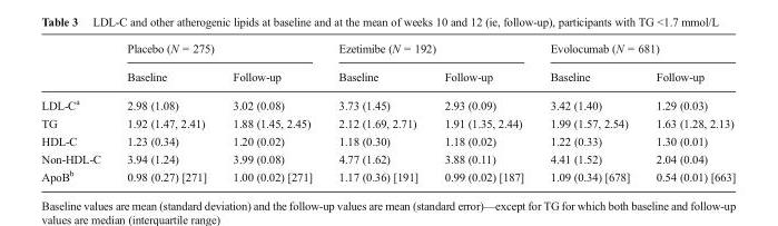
<table><thead><tr><td rowspan="2"></td><td colspan="2">Placebo (N = 275)</td><td colspan="2">Ezetimibe (N = 192)</td><td colspan="2">Evolocumab (N = 681)</td></tr><tr><td>Baseline</td><td>Follow-up</td><td>Baseline</td><td>Follow-up</td><td>Baseline</td><td>Follow-up</td></tr></thead><tbody><tr><td>LDL-C<sup>a</sup></td><td>2.98 (1.08)</td><td>3.02 (0.08)</td><td>3.73 (1.45)</td><td>2.93 (0.09)</td><td>3.42 (1.40)</td><td>1.29 (0.03)</td></tr><tr><td>TG</td><td>1.92 (1.47, 2.41)</td><td>1.88 (1.45, 2.45)</td><td>2.12 (1.69, 2.71)</td><td>1.91 (1.35, 2.44)</td><td>1.99 (1.57, 2.54)</td><td>1.63 (1.28, 2.13)</td></tr><tr><td>HDL-C</td><td>1.23 (0.34)</td><td>1.20 (0.02)</td><td>1.18 (0.30)</td><td>1.18 (0.02)</td><td>1.22 (0.33)</td><td>1.30 (0.01)</td></tr><tr><td>Non-HDL-C</td><td>3.94 (1.24)</td><td>3.99 (0.08)</td><td>4.77 (1.62)</td><td>3.88 (0.11)</td><td>4.41 (1.52)</td><td>2.04 (0.04)</td></tr><tr><td>ApoB<sup>b</sup></td><td>0.98 (0.27) [271]</td><td>1.00 (0.02) [271]</td><td>1.17 (0.36) [191]</td><td>0.99 (0.02) [187]</td><td>1.09 (0.34) [678]</td><td>0.54 (0.01) [663]</td></tr></tbody></table>